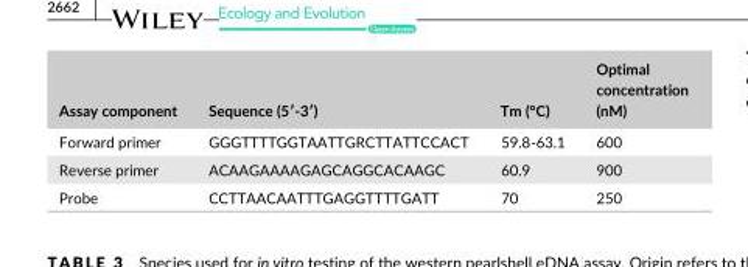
<table><thead><tr><td>Assay component</td><td>Sequence (5′- 3′)</td><td>Tm (°C)</td><td>Optimal concentration (nM)</td></tr></thead><tbody><tr><td>Forward primer</td><td>GGGTTTTGGTAATTGRCTTATTCCACT</td><td>59.8- 63.1</td><td>600</td></tr><tr><td>Reverse primer</td><td>ACAAGAAAAGAGCAGGCACAAGC</td><td>60.9</td><td>900</td></tr><tr><td>Probe</td><td>CCTTAACAATTTGAGGTTTTGATT</td><td>70</td><td>250</td></tr></tbody></table>